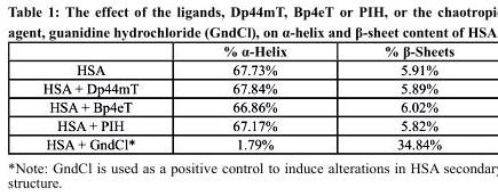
<table><thead><tr><td></td><td>% α-Helix</td><td>% β-Sheets</td></tr></thead><tbody><tr><td>HSA</td><td>67.73%</td><td>5.91%</td></tr><tr><td>HSA + Dp44mT</td><td>67.84%</td><td>5.89%</td></tr><tr><td>HSA + Bp4eT</td><td>66.86%</td><td>6.02%</td></tr><tr><td>HSA + PIH</td><td>67.17%</td><td>5.82%</td></tr><tr><td>HSA + GndCl*</td><td>1.79%</td><td>34.84%</td></tr></tbody></table>